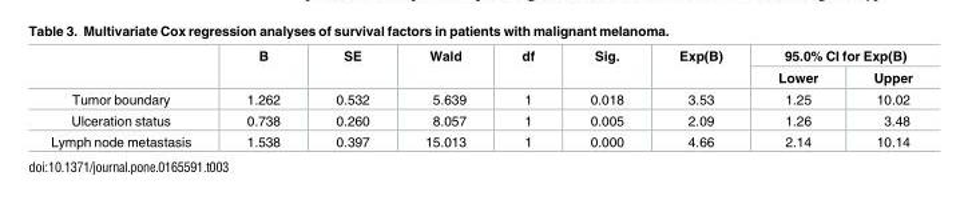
<table><thead><tr><td rowspan="2"></td><td rowspan="2">B</td><td rowspan="2">SE</td><td rowspan="2">Wald</td><td rowspan="2">df</td><td rowspan="2">Sig.</td><td rowspan="2">Exp(B)</td><td colspan="2">95.0% CI for Exp(B)</td></tr><tr><td>Lower</td><td>Upper</td></tr></thead><tbody><tr><td>Tumor boundary</td><td>1.262</td><td>0.532</td><td>5.639</td><td>1</td><td>0.018</td><td>3.53</td><td>1.25</td><td>10.02</td></tr><tr><td>Ulceration status</td><td>0.738</td><td>0.260</td><td>8.057</td><td>1</td><td>0.005</td><td>2.09</td><td>1.26</td><td>3.48</td></tr><tr><td>Lymph node metastasis</td><td>1.538</td><td>0.397</td><td>15.013</td><td>1</td><td>0.000</td><td>4.66</td><td>2.14</td><td>10.14</td></tr></tbody></table>